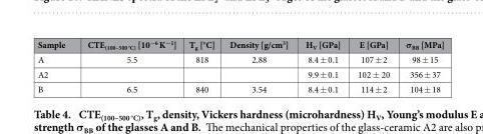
<table><thead><tr><td>Sample</td><td>CTE<sub>(100–500 °C)</sub> [10<sup>−6</sup> K<sup>−1</sup>]</td><td>T<sub>g</sub> [°C]</td><td>Density [g/cm<sup>3</sup>]</td><td>H<sub>V</sub> [GPa]</td><td>E [GPa]</td><td>σ<sub>BB</sub> [MPa]</td></tr></thead><tbody><tr><td>A</td><td>5.5</td><td>818</td><td>2.88</td><td>8.4 ± 0.1</td><td>107 ± 2</td><td>98 ± 15</td></tr><tr><td>A2</td><td></td><td></td><td></td><td>9.9 ± 0.1</td><td>102 ± 20</td><td>356 ± 37</td></tr><tr><td>B</td><td>6.5</td><td>840</td><td>3.54</td><td>8.4 ± 0.1</td><td>114 ± 2</td><td>104 ± 18</td></tr></tbody></table>